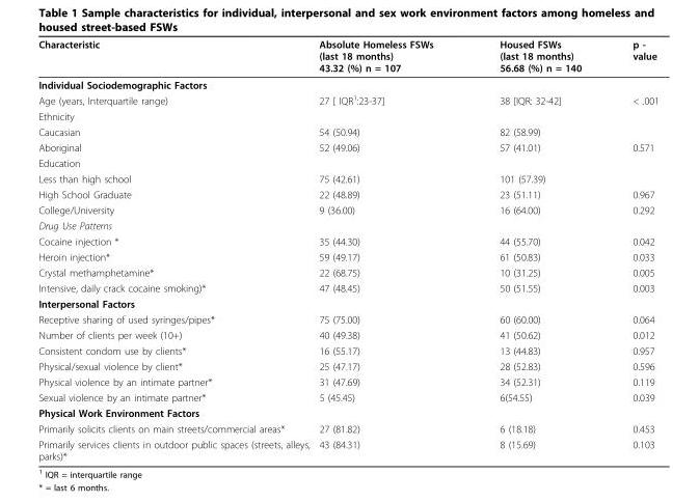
<table><thead><tr><td>Characteristic</td><td>Absolute Homeless FSWs (last 18 months) 43.32 (%) n = 107</td><td>Housed FSWs (last 18 months) 56.68 (%) n = 140</td><td>p - value</td></tr></thead><tbody><tr><td colspan="4">Individual Sociodemographic Factors</td></tr><tr><td>Age (years, Interquartile range)</td><td>27 [ IQR<sup>1</sup>:23-37]</td><td>38 [IQR: 32-42]</td><td>&lt; .001</td></tr><tr><td colspan="4">Ethnicity</td></tr><tr><td>Caucasian</td><td>54 (50.94)</td><td>82 (58.99)</td><td></td></tr><tr><td>Aboriginal</td><td>52 (49.06)</td><td>57 (41.01)</td><td>0.571</td></tr><tr><td colspan="4">Education</td></tr><tr><td>Less than high school</td><td>75 (42.61)</td><td>101 (57.39)</td><td></td></tr><tr><td>High School Graduate</td><td>22 (48.89)</td><td>23 (51.11)</td><td>0.967</td></tr><tr><td>College/University</td><td>9 (36.00)</td><td>16 (64.00)</td><td>0.292</td></tr><tr><td colspan="4">Drug Use Patterns</td></tr><tr><td>Cocaine injection *</td><td>35 (44.30)</td><td>44 (55.70)</td><td>0.042</td></tr><tr><td>Heroin injection*</td><td>59 (49.17)</td><td>61 (50.83)</td><td>0.033</td></tr><tr><td>Crystal methamphetamine*</td><td>22 (68.75)</td><td>10 (31.25)</td><td>0.005</td></tr><tr><td>Intensive, daily crack cocaine smoking)*</td><td>47 (48.45)</td><td>50 (51.55)</td><td>0.003</td></tr><tr><td colspan="4">Interpersonal Factors</td></tr><tr><td>Receptive sharing of used syringes/pipes*</td><td>75 (75.00)</td><td>60 (60.00)</td><td>0.064</td></tr><tr><td>Number of clients per week (10+)</td><td>40 (49.38)</td><td>41 (50.62)</td><td>0.012</td></tr><tr><td>Consistent condom use by clients*</td><td>16 (55.17)</td><td>13 (44.83)</td><td>0.957</td></tr><tr><td>Physical/sexual violence by client*</td><td>25 (47.17)</td><td>28 (52.83)</td><td>0.596</td></tr><tr><td>Physical violence by an intimate partner*</td><td>31 (47.69)</td><td>34 (52.31)</td><td>0.119</td></tr><tr><td>Sexual violence by an intimate partner*</td><td>5 (45.45)</td><td>6(54.55)</td><td>0.039</td></tr><tr><td colspan="4">Physical Work Environment Factors</td></tr><tr><td>Primarily solicits clients on main streets/commercial areas*</td><td>27 (81.82)</td><td>6 (18.18)</td><td>0.453</td></tr><tr><td>Primarily services clients in outdoor public spaces (streets, alleys, parks)*</td><td>43 (84.31)</td><td>8 (15.69)</td><td>0.103</td></tr></tbody></table>